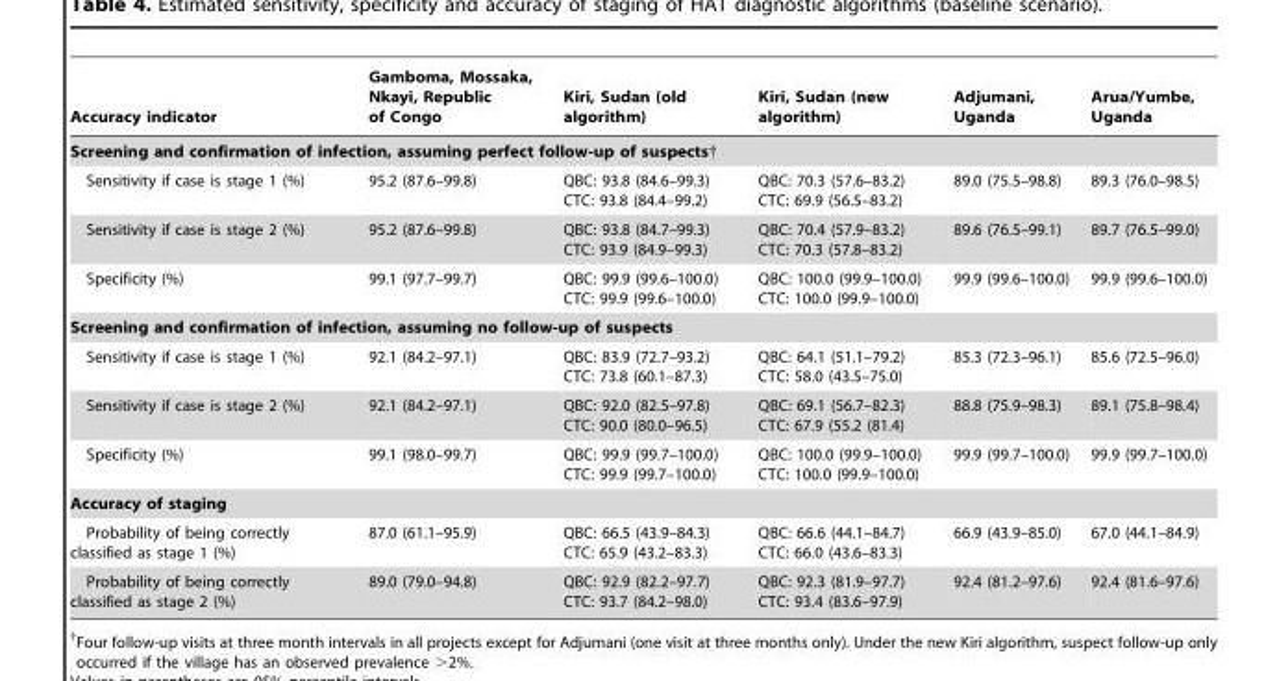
<table><thead><tr><td>Accuracy indicator</td><td>Gamboma, Mossaka, Nkayi, Republic of Congo</td><td>Kiri, Sudan (old algorithm)</td><td>Kiri, Sudan (new algorithm)</td><td>Adjumani, Uganda</td><td>Arua/Yumbe, Uganda</td></tr></thead><tbody><tr><td colspan="6">Screening and confirmation of infection, assuming perfect follow-up of suspects†</td></tr><tr><td>Sensitivity if case is stage 1 (%)</td><td>95.2 (87.6–99.8)</td><td>QBC: 93.8 (84.6–99.3) CTC: 93.8 (84.4–99.2)</td><td>QBC: 70.3 (57.6–83.2) CTC: 69.9 (56.5–83.2)</td><td>89.0 (75.5–98.8)</td><td>89.3 (76.0–98.5)</td></tr><tr><td>Sensitivity if case is stage 2 (%)</td><td>95.2 (87.6–99.8)</td><td>QBC: 93.8 (84.7–99.3) CTC: 93.9 (84.9–99.3)</td><td>QBC: 70.4 (57.9–83.2) CTC: 70.3 (57.8–83.2)</td><td>89.6 (76.5–99.1)</td><td>89.7 (76.5–99.0)</td></tr><tr><td>Specificity (%)</td><td>99.1 (97.7–99.7)</td><td>QBC: 99.9 (99.6–100.0) CTC: 99.9 (99.6–100.0)</td><td>QBC: 100.0 (99.9–100.0) CTC: 100.0 (99.9–100.0)</td><td>99.9 (99.6–100.0)</td><td>99.9 (99.6–100.0)</td></tr><tr><td colspan="6">Screening and confirmation of infection, assuming no follow-up of suspects</td></tr><tr><td>Sensitivity if case is stage 1 (%)</td><td>92.1 (84.2–97.1)</td><td>QBC: 83.9 (72.7–93.2) CTC: 73.8 (60.1–87.3)</td><td>QBC: 64.1 (51.1–79.2) CTC: 58.0 (43.5–75.0)</td><td>85.3 (72.3–96.1)</td><td>85.6 (72.5–96.0)</td></tr><tr><td>Sensitivity if case is stage 2 (%)</td><td>92.1 (84.2–97.1)</td><td>QBC: 92.0 (82.5–97.8) CTC: 90.0 (80.0–96.5)</td><td>QBC: 69.1 (56.7–82.3) CTC: 67.9 (55.2 (81.4)</td><td>88.8 (75.9–98.3)</td><td>89.1 (75.8–98.4)</td></tr><tr><td>Specificity (%)</td><td>99.1 (98.0–99.7)</td><td>QBC: 99.9 (99.7–100.0) CTC: 99.9 (99.7–100.0)</td><td>QBC: 100.0 (99.9–100.0) CTC: 100.0 (99.9–100.0)</td><td>99.9 (99.7–100.0)</td><td>99.9 (99.7–100.0)</td></tr><tr><td colspan="6">Accuracy of staging</td></tr><tr><td>Probability of being correctly classified as stage 1 (%)</td><td>87.0 (61.1–95.9)</td><td>QBC: 66.5 (43.9–84.3) CTC: 65.9 (43.2–83.3)</td><td>QBC: 66.6 (44.1–84.7) CTC: 66.0 (43.6–83.3)</td><td>66.9 (43.9–85.0)</td><td>67.0 (44.1–84.9)</td></tr><tr><td>Probability of being correctly classified as stage 2 (%)</td><td>89.0 (79.0–94.8)</td><td>QBC: 92.9 (82.2–97.7) CTC: 93.7 (84.2–98.0)</td><td>QBC: 92.3 (81.9–97.7) CTC: 93.4 (83.6–97.9)</td><td>92.4 (81.2–97.6)</td><td>92.4 (81.6–97.6)</td></tr></tbody></table>